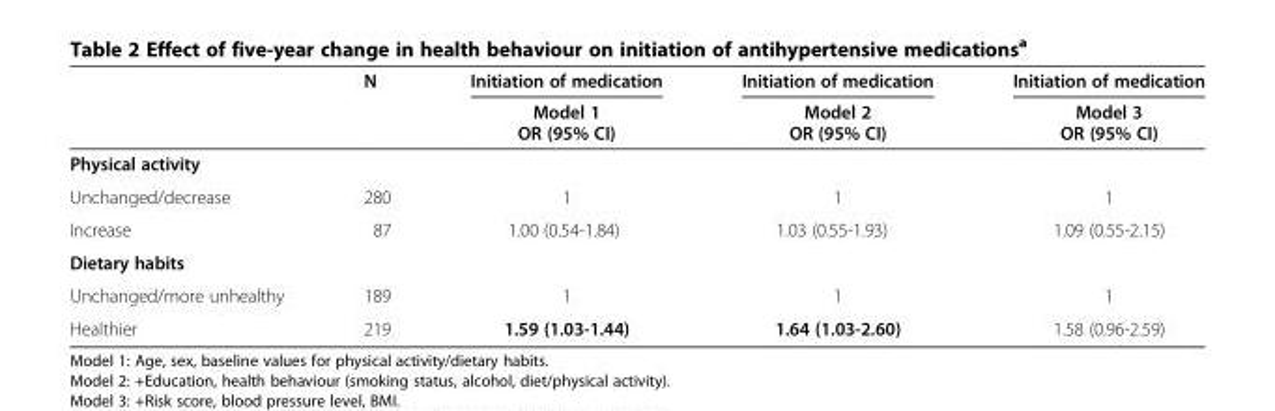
<table><thead><tr><td rowspan="2"></td><td rowspan="2">N</td><td rowspan="2">Initiation of medication Model 1 OR (95% CI)</td><td rowspan="2">Initiation of medication Model 2 OR (95% CI)</td><td rowspan="2">Initiation of medication Model 3 OR (95% CI)</td></tr><tr></tr></thead><tbody><tr><td colspan="5">Physical activity</td></tr><tr><td>Unchanged/decrease</td><td>280</td><td>1</td><td>1</td><td>1</td></tr><tr><td>Increase</td><td>87</td><td>1.00 (0.54-1.84)</td><td>1.03 (0.55-1.93)</td><td>1.09 (0.55-2.15)</td></tr><tr><td colspan="5">Dietary habits</td></tr><tr><td>Unchanged/more unhealthy</td><td>189</td><td>1</td><td>1</td><td>1</td></tr><tr><td>Healthier</td><td>219</td><td>1.59 (1.03-1.44)</td><td>1.64 (1.03-2.60)</td><td>1.58 (0.96-2.59)</td></tr></tbody></table>